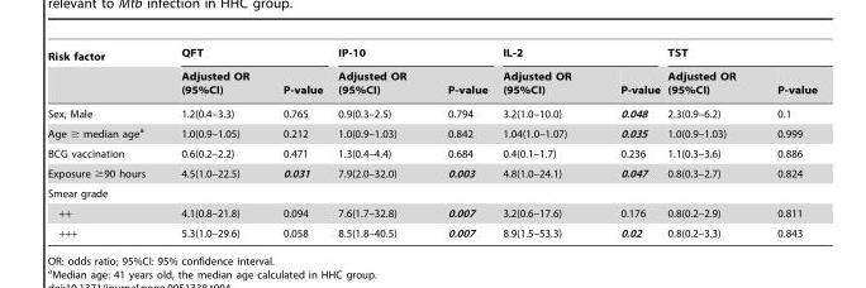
<table><thead><tr><td rowspan="2">Risk factor</td><td colspan="2">QFT</td><td colspan="2">IP-10</td><td colspan="2">IL-2</td><td colspan="2">TST</td></tr><tr><td>Adjusted OR (95%CI)</td><td>P-value</td><td>Adjusted OR (95%CI)</td><td>P-value</td><td>Adjusted OR (95%CI)</td><td>P-value</td><td>Adjusted OR (95%CI)</td><td>P-value</td></tr></thead><tbody><tr><td>Sex, Male</td><td>1.2(0.4–3.3)</td><td>0.765</td><td>0.9(0.3–2.5)</td><td>0.794</td><td>3.2(1.0–10.0)</td><td>0.048</td><td>2.3(0.9–6.2)</td><td>0.1</td></tr><tr><td>Age ≥ median age<sup>a</sup></td><td>1.0(0.9–1.05)</td><td>0.212</td><td>1.0(0.9–1.03)</td><td>0.842</td><td>1.04(1.0–1.07)</td><td>0.035</td><td>1.0(0.9–1.03)</td><td>0.999</td></tr><tr><td>BCG vaccination</td><td>0.6(0.2–2.2)</td><td>0.471</td><td>1.3(0.4–4.4)</td><td>0.684</td><td>0.4(0.1–1.7)</td><td>0.236</td><td>1.1(0.3–3.6)</td><td>0.886</td></tr><tr><td>Exposure ≥90 hours</td><td>4.5(1.0–22.5)</td><td>0.031</td><td>7.9(2.0–32.0)</td><td>0.003</td><td>4.8(1.0–24.1)</td><td>0.047</td><td>0.8(0.3–2.7)</td><td>0.824</td></tr><tr><td colspan="9">Smear grade</td></tr><tr><td>++</td><td>4.1(0.8–21.8)</td><td>0.094</td><td>7.6(1.7–32.8)</td><td>0.007</td><td>3.2(0.6–17.6)</td><td>0.176</td><td>0.8(0.2–2.9)</td><td>0.811</td></tr><tr><td>+++</td><td>5.3(1.0–29.6)</td><td>0.058</td><td>8.5(1.8–40.5)</td><td>0.007</td><td>8.9(1.5–53.3)</td><td>0.02</td><td>0.8(0.2–3.3)</td><td>0.843</td></tr></tbody></table>